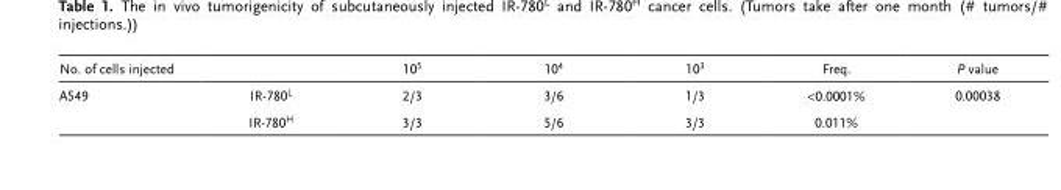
<table><thead><tr><td colspan="2">No. of cells injected</td><td rowspan="2">10<sup>5</sup> 2/3</td><td rowspan="2">10<sup>4</sup> 3/6</td><td rowspan="2">10<sup>3</sup> 1/3</td><td rowspan="2">Freq. &lt;0.0001%</td><td rowspan="2">P value 0.00038</td></tr><tr><td>A549</td><td>IR-780<sup>L</sup></td></tr></thead><tbody><tr><td></td><td>IR-780<sup>H</sup></td><td>3/3</td><td>5/6</td><td>3/3</td><td>0.011%</td><td></td></tr></tbody></table>